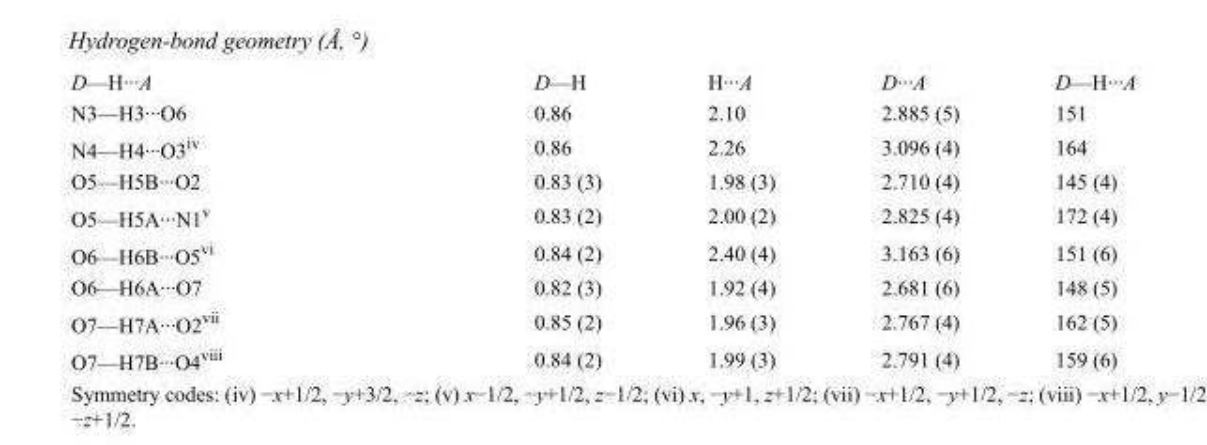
<table><tbody><tr><td>D—H···A</td><td>D—H</td><td>H···A</td><td>D···A</td><td>D—H···A</td></tr><tr><td>N3—H3···O6</td><td>0.86</td><td>2.10</td><td>2.885 (5)</td><td>151</td></tr><tr><td>N4—H4···O3<sup>iv</sup></td><td>0.86</td><td>2.26</td><td>3.096 (4)</td><td>164</td></tr><tr><td>O5—H5B···O2</td><td>0.83 (3)</td><td>1.98 (3)</td><td>2.710 (4)</td><td>145 (4)</td></tr><tr><td>O5—H5A···N1<sup>v</sup></td><td>0.83 (2)</td><td>2.00 (2)</td><td>2.825 (4)</td><td>172 (4)</td></tr><tr><td>O6—H6B···O5<sup>vi</sup></td><td>0.84 (2)</td><td>2.40 (4)</td><td>3.163 (6)</td><td>151 (6)</td></tr><tr><td>O6—H6A···O7</td><td>0.82 (3)</td><td>1.92 (4)</td><td>2.681 (6)</td><td>148 (5)</td></tr><tr><td>O7—H7A···O2<sup>vii</sup></td><td>0.85 (2)</td><td>1.96 (3)</td><td>2.767 (4)</td><td>162 (5)</td></tr><tr><td>O7—H7B···O4<sup>viii</sup></td><td>0.84 (2)</td><td>1.99 (3)</td><td>2.791 (4)</td><td>159 (6)</td></tr></tbody></table>